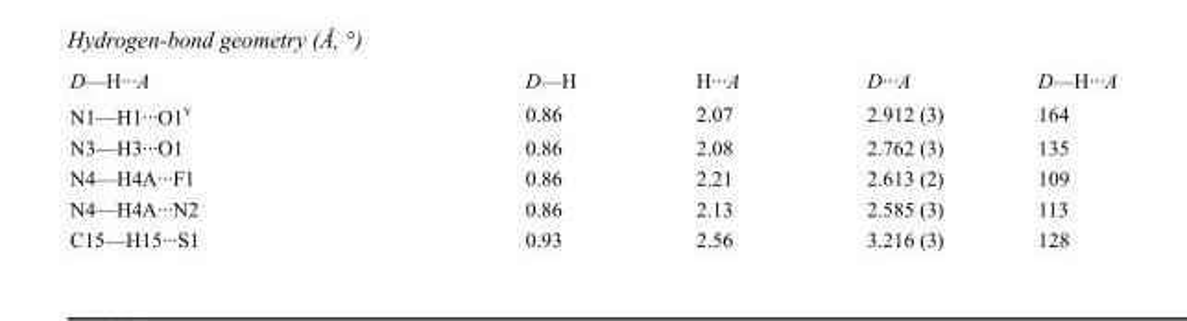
<table><tbody><tr><td>D—H···A</td><td>D—H</td><td>H···A</td><td>D···A</td><td>D—H···A</td></tr><tr><td>N1—H1···O1<sup>v</sup></td><td>0.86</td><td>2.07</td><td>2.912 (3)</td><td>164</td></tr><tr><td>N3—H3···O1</td><td>0.86</td><td>2.08</td><td>2.762 (3)</td><td>135</td></tr><tr><td>N4—H4A···F1</td><td>0.86</td><td>2.21</td><td>2.613 (2)</td><td>109</td></tr><tr><td>N4—H4A···N2</td><td>0.86</td><td>2.13</td><td>2.585 (3)</td><td>113</td></tr><tr><td>C15—H15···S1</td><td>0.93</td><td>2.56</td><td>3.216 (3)</td><td>128</td></tr></tbody></table>